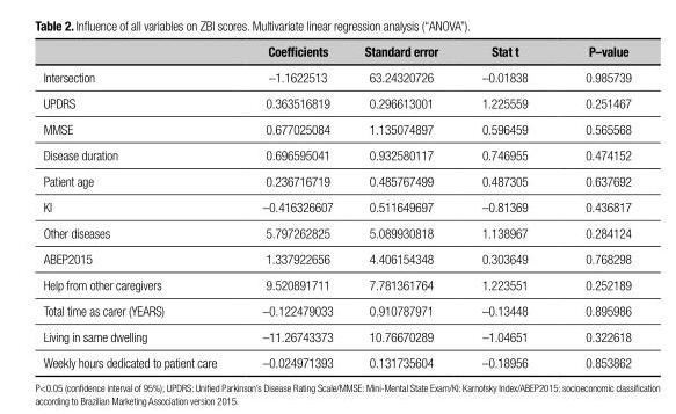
<table><thead><tr><td></td><td>Coefficients</td><td>Standard error</td><td>Stat t</td><td>P–value</td></tr></thead><tbody><tr><td>Intersection</td><td>–1.1622513</td><td>63.24320726</td><td>–0.01838</td><td>0.985739</td></tr><tr><td>UPDRS</td><td>0.363516819</td><td>0.296613001</td><td>1.225559</td><td>0.251467</td></tr><tr><td>MMSE</td><td>0.677025084</td><td>1.135074897</td><td>0.596459</td><td>0.565568</td></tr><tr><td>Disease duration</td><td>0.696595041</td><td>0.932580117</td><td>0.746955</td><td>0.474152</td></tr><tr><td>Patient age</td><td>0.236716719</td><td>0.485767499</td><td>0.487305</td><td>0.637692</td></tr><tr><td>KI</td><td>–0.416326607</td><td>0.511649697</td><td>–0.81369</td><td>0.436817</td></tr><tr><td>Other diseases</td><td>5.797262825</td><td>5.089930818</td><td>1.138967</td><td>0.284124</td></tr><tr><td>ABEP2015</td><td>1.337922656</td><td>4.406154348</td><td>0.303649</td><td>0.768298</td></tr><tr><td>Help from other caregivers</td><td>9.520891711</td><td>7.781361764</td><td>1.223551</td><td>0.252189</td></tr><tr><td>Total time as carer (YEARS)</td><td>–0.122479033</td><td>0.910787971</td><td>–0.13448</td><td>0.895986</td></tr><tr><td>Living in same dwelling</td><td>–11.26743373</td><td>10.76670289</td><td>–1.04651</td><td>0.322618</td></tr><tr><td>Weekly hours dedicated to patient care</td><td>–0.024971393</td><td>0.131735604</td><td>–0.18956</td><td>0.853862</td></tr></tbody></table>